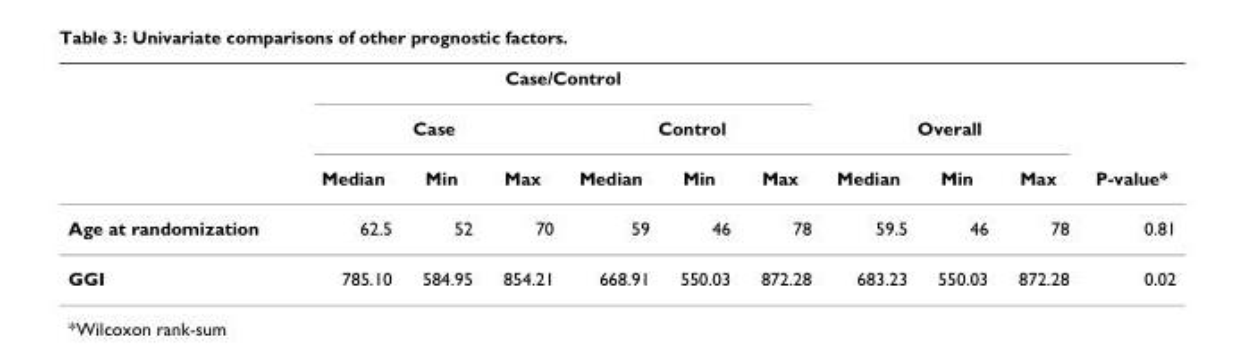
<table><thead><tr><td rowspan="3"></td><td colspan="6">Case/Control</td><td></td><td></td><td></td><td rowspan="3">P-value*</td></tr><tr><td colspan="3">Case</td><td colspan="3">Control</td><td colspan="3">Overall</td></tr><tr><td>Median</td><td>Min</td><td>Max</td><td>Median</td><td>Min</td><td>Max</td><td>Median</td><td>Min</td><td>Max</td></tr></thead><tbody><tr><td>Age at randomization</td><td>62.5</td><td>52</td><td>70</td><td>59</td><td>46</td><td>78</td><td>59.5</td><td>46</td><td>78</td><td>0.81</td></tr><tr><td>GGI</td><td>785.10</td><td>584.95</td><td>854.21</td><td>668.91</td><td>550.03</td><td>872.28</td><td>683.23</td><td>550.03</td><td>872.28</td><td>0.02</td></tr></tbody></table>